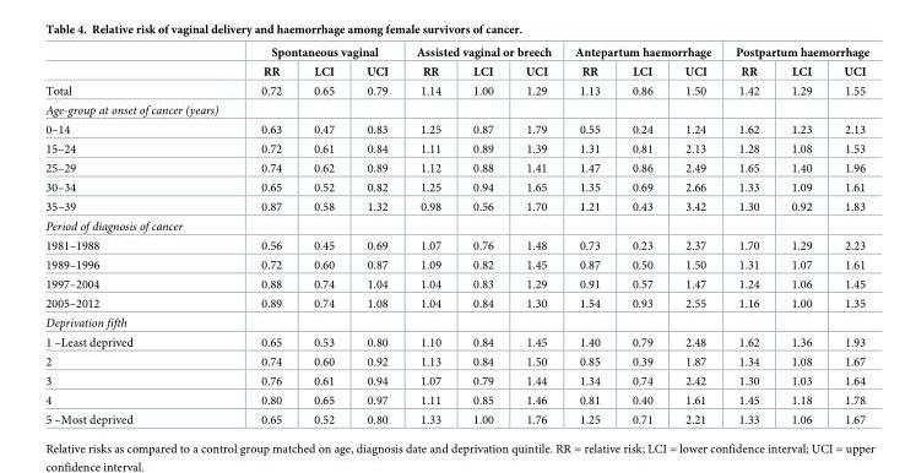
<table><thead><tr><td rowspan="2"></td><td colspan="3">Spontaneous vaginal</td><td colspan="3">Assisted vaginal or breech</td><td colspan="3">Antepartum haemorrhage</td><td colspan="3">Postpartum haemorrhage</td></tr><tr><td>RR</td><td>LCI</td><td>UCI</td><td>RR</td><td>LCI</td><td>UCI</td><td>RR</td><td>LCI</td><td>UCI</td><td>RR</td><td>LCI</td><td>UCI</td></tr></thead><tbody><tr><td>Total</td><td>0.72</td><td>0.65</td><td>0.79</td><td>1.14</td><td>1.00</td><td>1.29</td><td>1.13</td><td>0.86</td><td>1.50</td><td>1.42</td><td>1.29</td><td>1.55</td></tr><tr><td colspan="13">Age-group at onset of cancer (years)</td></tr><tr><td>0–14</td><td>0.63</td><td>0.47</td><td>0.83</td><td>1.25</td><td>0.87</td><td>1.79</td><td>0.55</td><td>0.24</td><td>1.24</td><td>1.62</td><td>1.23</td><td>2.13</td></tr><tr><td>15–24</td><td>0.72</td><td>0.61</td><td>0.84</td><td>1.11</td><td>0.89</td><td>1.39</td><td>1.31</td><td>0.81</td><td>2.13</td><td>1.28</td><td>1.08</td><td>1.53</td></tr><tr><td>25–29</td><td>0.74</td><td>0.62</td><td>0.89</td><td>1.12</td><td>0.88</td><td>1.41</td><td>1.47</td><td>0.86</td><td>2.49</td><td>1.65</td><td>1.40</td><td>1.96</td></tr><tr><td>30–34</td><td>0.65</td><td>0.52</td><td>0.82</td><td>1.25</td><td>0.94</td><td>1.65</td><td>1.35</td><td>0.69</td><td>2.66</td><td>1.33</td><td>1.09</td><td>1.61</td></tr><tr><td>35–39</td><td>0.87</td><td>0.58</td><td>1.32</td><td>0.98</td><td>0.56</td><td>1.70</td><td>1.21</td><td>0.43</td><td>3.42</td><td>1.30</td><td>0.92</td><td>1.83</td></tr><tr><td colspan="13">Period of diagnosis of cancer</td></tr><tr><td>1981–1988</td><td>0.56</td><td>0.45</td><td>0.69</td><td>1.07</td><td>0.76</td><td>1.48</td><td>0.73</td><td>0.23</td><td>2.37</td><td>1.70</td><td>1.29</td><td>2.23</td></tr><tr><td>1989–1996</td><td>0.72</td><td>0.60</td><td>0.87</td><td>1.09</td><td>0.82</td><td>1.45</td><td>0.87</td><td>0.50</td><td>1.50</td><td>1.31</td><td>1.07</td><td>1.61</td></tr><tr><td>1997–2004</td><td>0.88</td><td>0.74</td><td>1.04</td><td>1.04</td><td>0.83</td><td>1.29</td><td>0.91</td><td>0.57</td><td>1.47</td><td>1.24</td><td>1.06</td><td>1.45</td></tr><tr><td>2005–2012</td><td>0.89</td><td>0.74</td><td>1.08</td><td>1.04</td><td>0.84</td><td>1.30</td><td>1.54</td><td>0.93</td><td>2.55</td><td>1.16</td><td>1.00</td><td>1.35</td></tr><tr><td colspan="13">Deprivation fifth</td></tr><tr><td>1 –Least deprived</td><td>0.65</td><td>0.53</td><td>0.80</td><td>1.10</td><td>0.84</td><td>1.45</td><td>1.40</td><td>0.79</td><td>2.48</td><td>1.62</td><td>1.36</td><td>1.93</td></tr><tr><td>2</td><td>0.74</td><td>0.60</td><td>0.92</td><td>1.13</td><td>0.84</td><td>1.50</td><td>0.85</td><td>0.39</td><td>1.87</td><td>1.34</td><td>1.08</td><td>1.67</td></tr><tr><td>3</td><td>0.76</td><td>0.61</td><td>0.94</td><td>1.07</td><td>0.79</td><td>1.44</td><td>1.34</td><td>0.74</td><td>2.42</td><td>1.30</td><td>1.03</td><td>1.64</td></tr><tr><td>4</td><td>0.80</td><td>0.65</td><td>0.97</td><td>1.11</td><td>0.85</td><td>1.46</td><td>0.81</td><td>0.40</td><td>1.61</td><td>1.45</td><td>1.18</td><td>1.78</td></tr><tr><td>5 –Most deprived</td><td>0.65</td><td>0.52</td><td>0.80</td><td>1.33</td><td>1.00</td><td>1.76</td><td>1.25</td><td>0.71</td><td>2.21</td><td>1.33</td><td>1.06</td><td>1.67</td></tr></tbody></table>